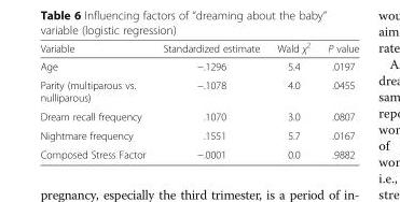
<table><thead><tr><td>Variable</td><td>Standardized estimate</td><td>Wald χ<sup>2</sup></td><td>P value</td></tr></thead><tbody><tr><td>Age</td><td>−.1296</td><td>5.4</td><td>.0197</td></tr><tr><td>Parity (multiparous vs. nulliparous)</td><td>−.1078</td><td>4.0</td><td>.0455</td></tr><tr><td>Dream recall frequency</td><td>.1070</td><td>3.0</td><td>.0807</td></tr><tr><td>Nightmare frequency</td><td>.1551</td><td>5.7</td><td>.0167</td></tr><tr><td>Composed Stress Factor</td><td>−.0001</td><td>0.0</td><td>.9882</td></tr></tbody></table>